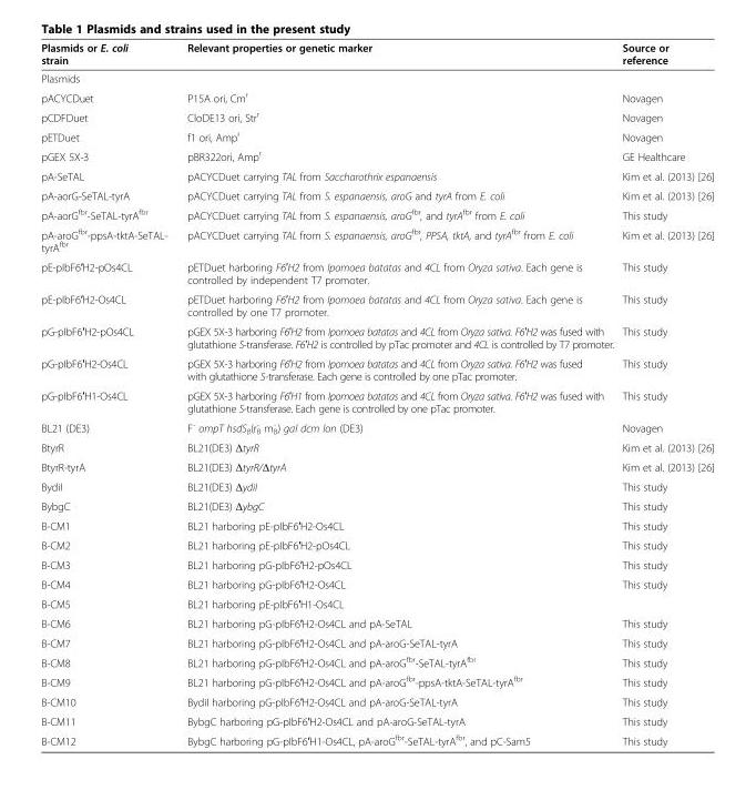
<table><thead><tr><td>Plasmids or E. coli strain</td><td>Relevant properties or genetic marker</td><td>Source or reference</td></tr></thead><tbody><tr><td colspan="3">Plasmids</td></tr><tr><td>pACYCDuet</td><td>P15A ori, Cm<sup>r</sup></td><td>Novagen</td></tr><tr><td>pCDFDuet</td><td>CloDE13 ori, Str<sup>r</sup></td><td>Novagen</td></tr><tr><td>pETDuet</td><td>f1 ori, Amp<sup>r</sup></td><td>Novagen</td></tr><tr><td>pGEX 5X-3</td><td>pBR322ori, Amp<sup>r</sup></td><td>GE Healthcare</td></tr><tr><td>pA-SeTAL</td><td>pACYCDuet carrying TAL from Saccharothrix espanaensis</td><td>Kim et al. (2013) [26]</td></tr><tr><td>pA-aorG-SeTAL-tyrA</td><td>pACYCDuet carrying TAL from S. espanaensis, aroG and tyrA from E. coli</td><td>Kim et al. (2013) [26]</td></tr><tr><td>pA-aorG<sup>fbr</sup>-SeTAL-tyrA<sup>fbr</sup></td><td>pACYCDuet carrying TAL from S. espanaensis, aroG<sup>fbr</sup>, and tyrA<sup>fbr</sup> from E. coli</td><td>This study</td></tr><tr><td>pA-aroG<sup>fbr</sup>-ppsA-tktA-SeTAL- tyrA<sup>fbr</sup></td><td>pACYCDuet carrying TAL from S. espanaensis, aroG<sup>fbr</sup>, PPSA, tktA, and tyrA<sup>fbr</sup> from E. coli</td><td>Kim et al. (2013) [26]</td></tr><tr><td>pE-pIbF6′H2-pOs4CL</td><td>pETDuet harboring F6′H2 from Ipomoea batatas and 4CL from Oryza sativa. Each gene is controlled by independent T7 promoter.</td><td>This study</td></tr><tr><td>pE-pIbF6′H2-Os4CL</td><td>pETDuet harboring F6′H2 from Ipomoea batatas and 4CL from Oryza sativa. Each gene is controlled by one T7 promoter.</td><td>This study</td></tr><tr><td>pG-pIbF6′H2-pOs4CL</td><td>pGEX 5X-3 harboring F6′H2 from Ipomoea batatas and 4CL from Oryza sativa. F6′H2 was fused with glutathione S-transferase. F6′H2 is controlled by pTac promoter and 4CL is controlled by T7 promoter.</td><td>This study</td></tr><tr><td>pG-pIbF6′H2-Os4CL</td><td>pGEX 5X-3 harboring F6′H2 from Ipomoea batatas and 4CL from Oryza sativa. F6′H2 was fused with glutathione S-transferase. Each gene is controlled by one pTac promoter.</td><td>This study</td></tr><tr><td>pG-pIbF6′H1-Os4CL</td><td>pGEX 5X-3 harboring F6′H1 from Ipomoea batatas and 4CL from Oryza sativa. F6′H2 was fused with glutathione S-transferase. Each gene is controlled by one pTac promoter.</td><td>This study</td></tr><tr><td>BL21 (DE3)</td><td>F<sup>-</sup> ompT hsdS<sub>B</sub>(r<sub>B</sub> <sup>-</sup> m<sub>B</sub> <sup>-</sup> ) gal dcm lon (DE3)</td><td>Novagen</td></tr><tr><td>BtyrR</td><td>BL21(DE3) ΔtyrR</td><td>Kim et al. (2013) [26]</td></tr><tr><td>BtyrR-tyrA</td><td>BL21(DE3) ΔtyrR/ΔtyrA</td><td>Kim et al. (2013) [26]</td></tr><tr><td>BydiI</td><td>BL21(DE3) ΔydiI</td><td>This study</td></tr><tr><td>BybgC</td><td>BL21(DE3) ΔybgC</td><td>This study</td></tr><tr><td>B-CM1</td><td>BL21 harboring pE-pIbF6′H2-Os4CL</td><td>This study</td></tr><tr><td>B-CM2</td><td>BL21 harboring pE-pIbF6′H2-pOs4CL</td><td>This study</td></tr><tr><td>B-CM3</td><td>BL21 harboring pG-pIbF6′H2-pOs4CL</td><td>This study</td></tr><tr><td>B-CM4</td><td>BL21 harboring pG-pIbF6′H2-Os4CL</td><td>This study</td></tr><tr><td>B-CM5</td><td>BL21 harboring pE-pIbF6′H1-Os4CL</td><td></td></tr><tr><td>B-CM6</td><td>BL21 harboring pG-pIbF6′H2-Os4CL and pA-SeTAL</td><td>This study</td></tr><tr><td>B-CM7</td><td>BL21 harboring pG-pIbF6′H2-Os4CL and pA-aroG-SeTAL-tyrA</td><td>This study</td></tr><tr><td>B-CM8</td><td>BL21 harboring pG-pIbF6′H2-Os4CL and pA-aroG<sup>fbr</sup>-SeTAL-tyrA<sup>fbr</sup></td><td>This study</td></tr><tr><td>B-CM9</td><td>BL21 harboring pG-pIbF6′H2-Os4CL and pA-aroG<sup>fbr</sup>-ppsA-tktA-SeTAL-tyrA<sup>fbr</sup></td><td>This study</td></tr><tr><td>B-CM10</td><td>BydiI harboring pG-pIbF6′H2-Os4CL and pA-aroG-SeTAL-tyrA</td><td>This study</td></tr><tr><td>B-CM11</td><td>BybgC harboring pG-pIbF6′H2-Os4CL and pA-aroG-SeTAL-tyrA</td><td>This study</td></tr><tr><td>B-CM12</td><td>BybgC harboring pG-pIbF6′H1-Os4CL, pA-aroG<sup>fbr</sup>-SeTAL-tyrA<sup>fbr</sup>, and pC-Sam5</td><td>This study</td></tr></tbody></table>